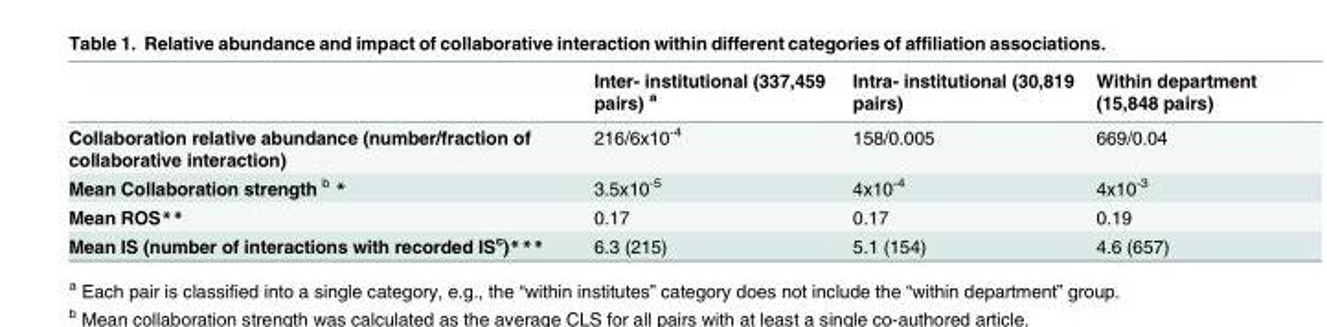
<table><thead><tr><td></td><td>Inter- institutional (337,459 pairs) <sup>a</sup></td><td>Intra- institutional (30,819 pairs)</td><td>Within department (15,848 pairs)</td></tr></thead><tbody><tr><td>Collaboration relative abundance (number/fraction of collaborative interaction)</td><td>216/6x10<sup>-4</sup></td><td>158/0.005</td><td>669/0.04</td></tr><tr><td>Mean Collaboration strength <sup>b</sup> *</td><td>3.5x10<sup>-5</sup></td><td>4x10<sup>-4</sup></td><td>4x10<sup>-3</sup></td></tr><tr><td>Mean ROS**</td><td>0.17</td><td>0.17</td><td>0.19</td></tr><tr><td>Mean IS (number of interactions with recorded IS<sup>c</sup>)***</td><td>6.3 (215)</td><td>5.1 (154)</td><td>4.6 (657)</td></tr></tbody></table>